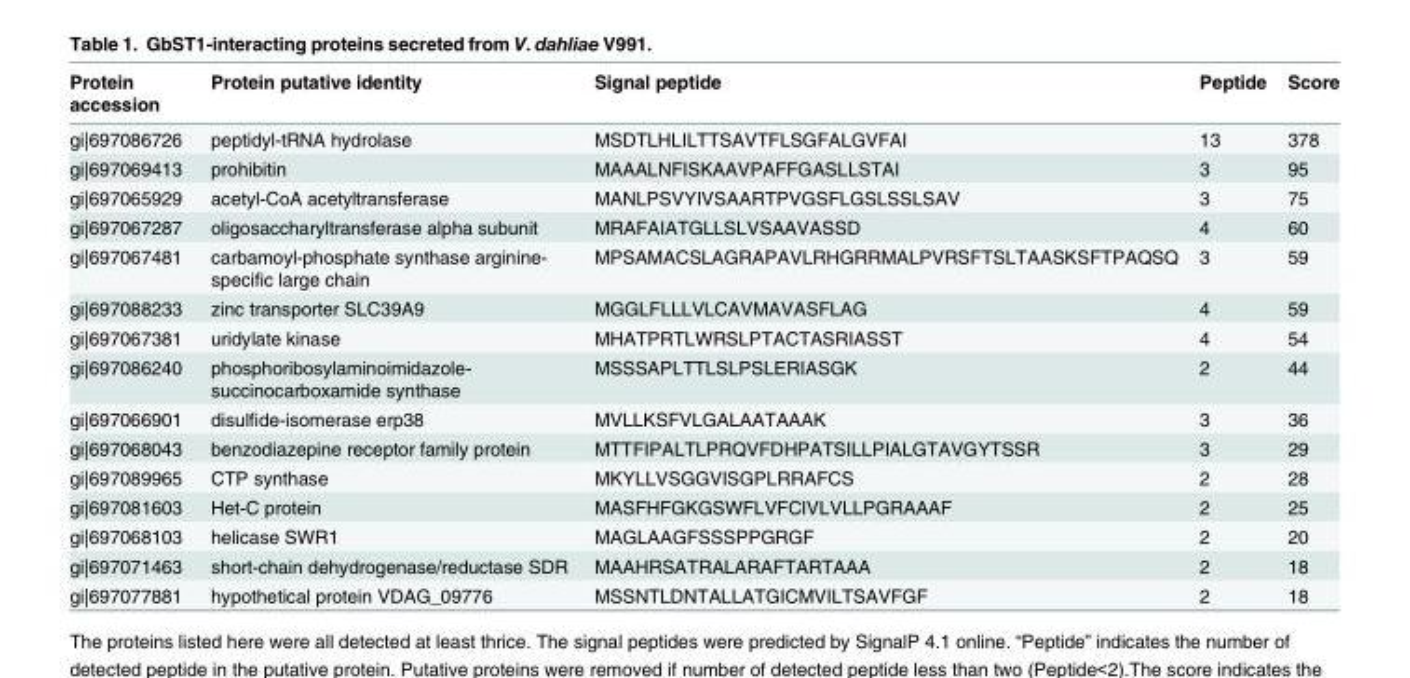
<table><thead><tr><td>Protein accession</td><td>Protein putative identity</td><td>Signal peptide</td><td>Peptide</td><td>Score</td></tr></thead><tbody><tr><td>gi|697086726</td><td>peptidyl-tRNA hydrolase</td><td>MSDTLHLILTTSAVTFLSGFALGVFAI</td><td>13</td><td>378</td></tr><tr><td>gi|697069413</td><td>prohibitin</td><td>MAAALNFISKAAVPAFFGASLLSTAI</td><td>3</td><td>95</td></tr><tr><td>gi|697065929</td><td>acetyl-CoA acetyltransferase</td><td>MANLPSVYIVSAARTPVGSFLGSLSSLSAV</td><td>3</td><td>75</td></tr><tr><td>gi|697067287</td><td>oligosaccharyltransferase alpha subunit</td><td>MRAFAIATGLLSLVSAAVASSD</td><td>4</td><td>60</td></tr><tr><td>gi|697067481</td><td>carbamoyl-phosphate synthase arginine- specific large chain</td><td>MPSAMACSLAGRAPAVLRHGRRMALPVRSFTSLTAASKSFTPAQSQ</td><td>3</td><td>59</td></tr><tr><td>gi|697088233</td><td>zinc transporter SLC39A9</td><td>MGGLFLLLVLCAVMAVASFLAG</td><td>4</td><td>59</td></tr><tr><td>gi|697067381</td><td>uridylate kinase</td><td>MHATPRTLWRSLPTACTASRIASST</td><td>4</td><td>54</td></tr><tr><td>gi|697086240</td><td>phosphoribosylaminoimidazole- succinocarboxamide synthase</td><td>MSSSAPLTTLSLPSLERIASGK</td><td>2</td><td>44</td></tr><tr><td>gi|697066901</td><td>disulfide-isomerase erp38</td><td>MVLLKSFVLGALAATAAAK</td><td>3</td><td>36</td></tr><tr><td>gi|697068043</td><td>benzodiazepine receptor family protein</td><td>MTTFIPALTLPRQVFDHPATSILLPIALGTAVGYTSSR</td><td>3</td><td>29</td></tr><tr><td>gi|697089965</td><td>CTP synthase</td><td>MKYLLVSGGVISGPLRRAFCS</td><td>2</td><td>28</td></tr><tr><td>gi|697081603</td><td>Het-C protein</td><td>MASFHFGKGSWFLVFCIVLVLLPGRAAAF</td><td>2</td><td>25</td></tr><tr><td>gi|697068103</td><td>helicase SWR1</td><td>MAGLAAGFSSSPPGRGF</td><td>2</td><td>20</td></tr><tr><td>gi|697071463</td><td>short-chain dehydrogenase/reductase SDR</td><td>MAAHRSATRALARAFTARTAAA</td><td>2</td><td>18</td></tr><tr><td>gi|697077881</td><td>hypothetical protein VDAG_09776</td><td>MSSNTLDNTALLATGICMVILTSAVFGF</td><td>2</td><td>18</td></tr></tbody></table>